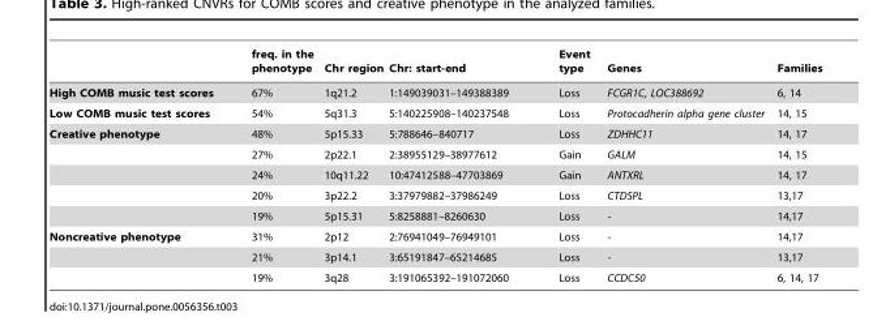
<table><thead><tr><td></td><td>freq. in the phenotype</td><td>Chr region</td><td>Chr: start-end</td><td>Event type</td><td>Genes</td><td>Families</td></tr></thead><tbody><tr><td>High COMB music test scores</td><td>67%</td><td>1q21.2</td><td>1:149039031–149388389</td><td>Loss</td><td>FCGR1C, LOC388692</td><td>6, 14</td></tr><tr><td>Low COMB music test scores</td><td>54%</td><td>5q31.3</td><td>5:140225908–140237548</td><td>Loss</td><td>Protocadherin alpha gene cluster</td><td>14, 15</td></tr><tr><td rowspan="5">Creative phenotype</td><td>48%</td><td>5p15.33</td><td>5:788646–840717</td><td>Loss</td><td>ZDHHC11</td><td>14, 17</td></tr><tr><td>27%</td><td>2p22.1</td><td>2:38955129–38977612</td><td>Gain</td><td>GALM</td><td>14, 15</td></tr><tr><td>24%</td><td>10q11.22</td><td>10:47412588–47703869</td><td>Gain</td><td>ANTXRL</td><td>14, 17</td></tr><tr><td>20%</td><td>3p22.2</td><td>3:37979882–37986249</td><td>Loss</td><td>CTDSPL</td><td>13,17</td></tr><tr><td>19%</td><td>5p15.31</td><td>5:8258881–8260630</td><td>Loss</td><td>-</td><td>14,17</td></tr><tr><td rowspan="3">Noncreative phenotype</td><td>31%</td><td>2p12</td><td>2:76941049–76949101</td><td>Loss</td><td>-</td><td>14,17</td></tr><tr><td>21%</td><td>3p14.1</td><td>3:65191847–65214685</td><td>Loss</td><td>-</td><td>13,17</td></tr><tr><td>19%</td><td>3q28</td><td>3:191065392–191072060</td><td>Loss</td><td>CCDC50</td><td>6, 14, 17</td></tr></tbody></table>